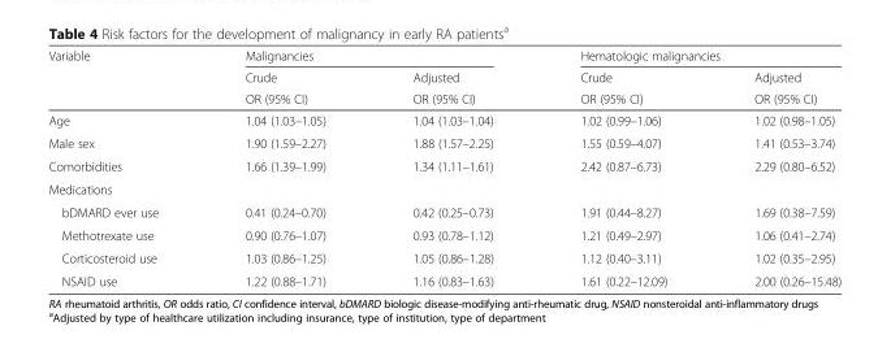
<table><thead><tr><td rowspan="3">Variable</td><td colspan="2">Malignancies</td><td colspan="2">Hematologic malignancies</td></tr><tr><td rowspan="2">Crude OR (95% CI)</td><td rowspan="2">Adjusted OR (95% CI)</td><td rowspan="2">Crude OR (95% CI)</td><td rowspan="2">Adjusted OR (95% CI)</td></tr><tr></tr></thead><tbody><tr><td>Age</td><td>1.04 (1.03–1.05)</td><td>1.04 (1.03–1.04)</td><td>1.02 (0.99–1.06)</td><td>1.02 (0.98–1.05)</td></tr><tr><td>Male sex</td><td>1.90 (1.59–2.27)</td><td>1.88 (1.57–2.25)</td><td>1.55 (0.59–4.07)</td><td>1.41 (0.53–3.74)</td></tr><tr><td>Comorbidities</td><td>1.66 (1.39–1.99)</td><td>1.34 (1.11–1.61)</td><td>2.42 (0.87–6.73)</td><td>2.29 (0.80–6.52)</td></tr><tr><td colspan="5">Medications</td></tr><tr><td>bDMARD ever use</td><td>0.41 (0.24–0.70)</td><td>0.42 (0.25–0.73)</td><td>1.91 (0.44–8.27)</td><td>1.69 (0.38–7.59)</td></tr><tr><td>Methotrexate use</td><td>0.90 (0.76–1.07)</td><td>0.93 (0.78–1.12)</td><td>1.21 (0.49–2.97)</td><td>1.06 (0.41–2.74)</td></tr><tr><td>Corticosteroid use</td><td>1.03 (0.86–1.25)</td><td>1.05 (0.86–1.28)</td><td>1.12 (0.40–3.11)</td><td>1.02 (0.35–2.95)</td></tr><tr><td>NSAID use</td><td>1.22 (0.88–1.71)</td><td>1.16 (0.83–1.63)</td><td>1.61 (0.22–12.09)</td><td>2.00 (0.26–15.48)</td></tr></tbody></table>